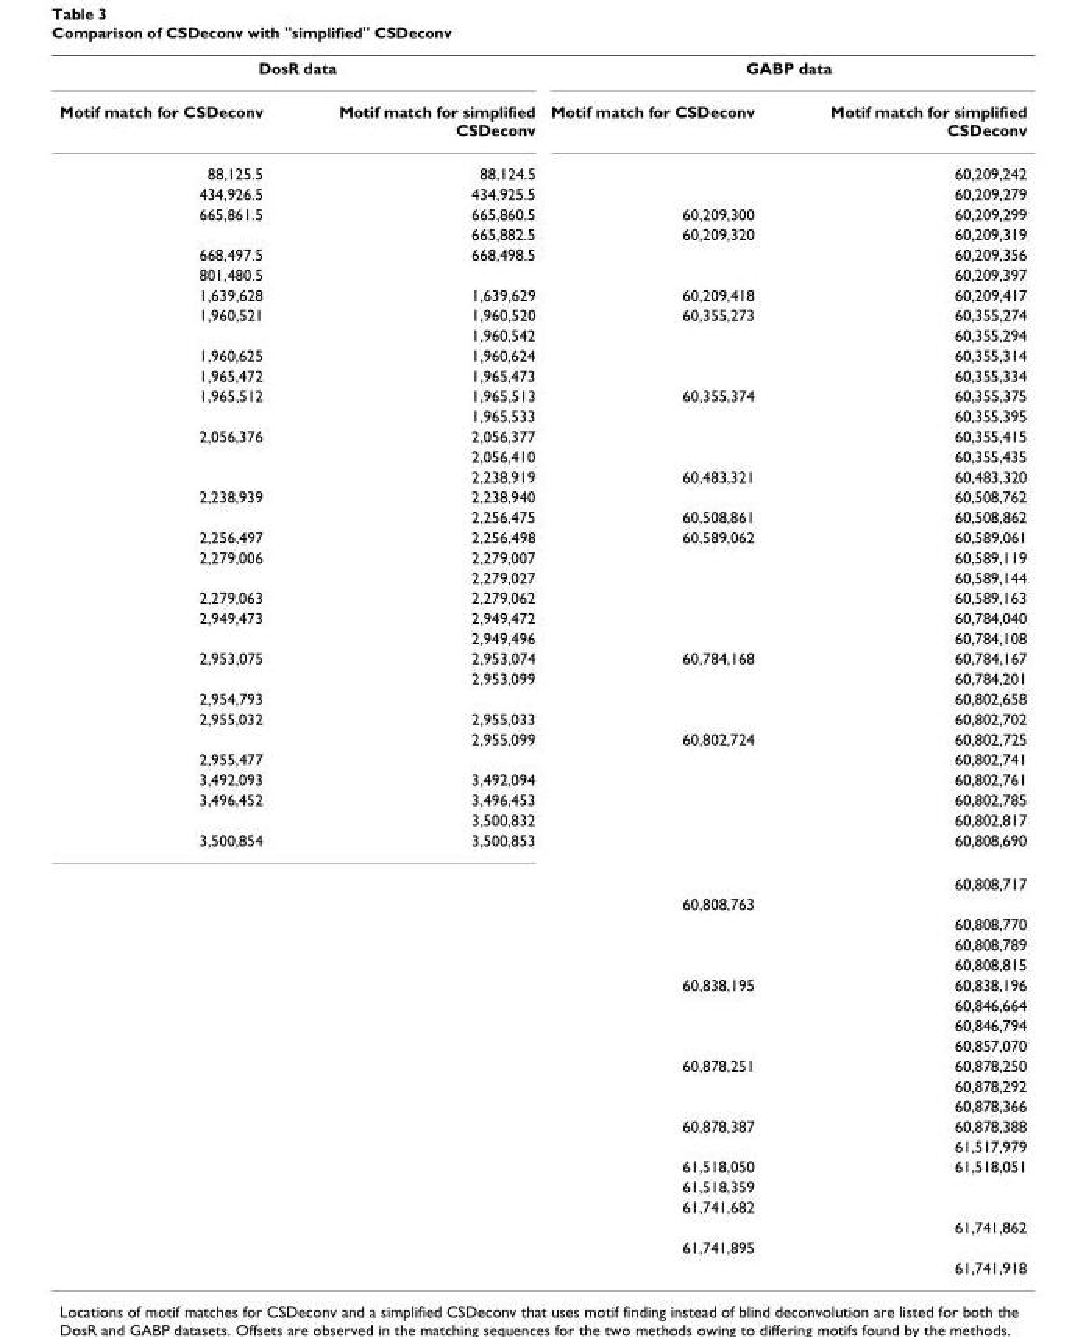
<table><tbody><tr><td colspan="2">DosR data</td><td colspan="2">GABP data</td></tr><tr><td>Motif match for CSDeconv</td><td>Motif match for simplified CSDeconv</td><td>Motif match for CSDeconv</td><td>Motif match for simplified CSDeconv</td></tr><tr><td>88,125.5</td><td>88,124.5</td><td></td><td>60,209,242</td></tr><tr><td>434,926.5</td><td>434,925.5</td><td></td><td>60,209,279</td></tr><tr><td rowspan="2">665,861.5</td><td>665,860.5</td><td>60,209,300</td><td>60,209,299</td></tr><tr><td>665,882.5</td><td>60,209,320</td><td>60,209,319</td></tr><tr><td>668,497.5</td><td>668,498.5</td><td></td><td>60,209,356</td></tr><tr><td>801,480.5</td><td></td><td></td><td>60,209,397</td></tr><tr><td>1,639,628</td><td>1,639,629</td><td>60,209,418</td><td>60,209,417</td></tr><tr><td rowspan="2">1,960,521</td><td>1,960,520</td><td>60,355,273</td><td>60,355,274</td></tr><tr><td>1,960,542</td><td></td><td>60,355,294</td></tr><tr><td>1,960,625</td><td>1,960,624</td><td></td><td>60,355,314</td></tr><tr><td>1,965,472</td><td>1,965,473</td><td></td><td>60,355,334</td></tr><tr><td rowspan="2">1,965,512</td><td>1,965,513</td><td>60,355,374</td><td>60,355,375</td></tr><tr><td>1,965,533</td><td></td><td>60,355,395</td></tr><tr><td rowspan="3">2,056,376</td><td>2,056,377</td><td></td><td>60,355,415</td></tr><tr><td>2,056,410</td><td></td><td>60,355,435</td></tr><tr><td>2,238,919</td><td>60,483,321</td><td>60,483,320</td></tr><tr><td rowspan="2">2,238,939</td><td>2,238,940</td><td></td><td>60,508,762</td></tr><tr><td>2,256,475</td><td>60,508,861</td><td>60,508,862</td></tr><tr><td>2,256,497</td><td>2,256,498</td><td>60,589,062</td><td>60,589,061</td></tr><tr><td rowspan="2">2,279,006</td><td>2,279,007</td><td></td><td>60,589,119</td></tr><tr><td>2,279,027</td><td></td><td>60,589,144</td></tr><tr><td>2,279,063</td><td>2,279,062</td><td></td><td>60,589,163</td></tr><tr><td rowspan="2">2,949,473</td><td>2,949,472</td><td></td><td>60,784,040</td></tr><tr><td>2,949,496</td><td></td><td>60,784,108</td></tr><tr><td rowspan="2">2,953,075</td><td>2,953,074</td><td>60,784,168</td><td>60,784,167</td></tr><tr><td>2,953,099</td><td></td><td>60,784,201</td></tr><tr><td>2,954,793</td><td></td><td></td><td>60,802,658</td></tr><tr><td rowspan="2">2,955,032</td><td>2,955,033</td><td></td><td>60,802,702</td></tr><tr><td>2,955,099</td><td>60,802,724</td><td>60,802,725</td></tr><tr><td>2,955,477</td><td></td><td></td><td>60,802,741</td></tr><tr><td>3,492,093</td><td>3,492,094</td><td></td><td>60,802,761</td></tr><tr><td rowspan="2">3,496,452</td><td>3,496,453</td><td></td><td>60,802,785</td></tr><tr><td>3,500,832</td><td></td><td>60,802,817</td></tr><tr><td rowspan="21">3,500,854</td><td>3,500,853</td><td></td><td>60,808,690</td></tr><tr><td></td><td></td><td>60,808,717</td></tr><tr><td></td><td>60,808,763</td><td></td></tr><tr><td></td><td></td><td>60,808,770</td></tr><tr><td></td><td></td><td>60,808,789</td></tr><tr><td></td><td></td><td>60,808,815</td></tr><tr><td></td><td>60,838,195</td><td>60,838,196</td></tr><tr><td></td><td></td><td>60,846,664</td></tr><tr><td></td><td></td><td>60,846,794</td></tr><tr><td></td><td></td><td>60,857,070</td></tr><tr><td></td><td>60,878,251</td><td>60,878,250</td></tr><tr><td></td><td></td><td>60,878,292</td></tr><tr><td></td><td></td><td>60,878,366</td></tr><tr><td></td><td>60,878,387</td><td>60,878,388</td></tr><tr><td></td><td></td><td>61,517,979</td></tr><tr><td></td><td>61,518,050</td><td>61,518,051</td></tr><tr><td></td><td>61,518,359</td><td></td></tr><tr><td></td><td>61,741,682</td><td></td></tr><tr><td></td><td></td><td>61,741,862</td></tr><tr><td></td><td>61,741,895</td><td></td></tr><tr><td></td><td></td><td>61,741,918</td></tr></tbody></table>